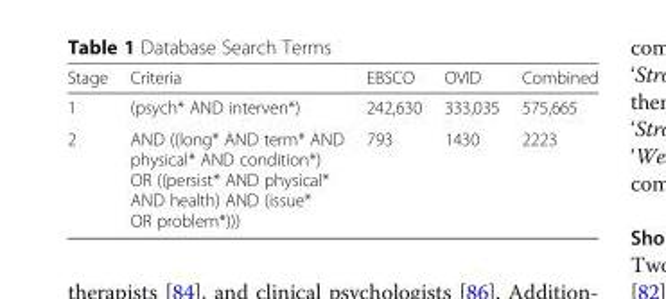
<table><thead><tr><td>Stage</td><td>Criteria</td><td>EBSCO</td><td>OVID</td><td>Combined</td></tr></thead><tbody><tr><td>1</td><td>(psych* AND interven*)</td><td>242,630</td><td>333,035</td><td>575,665</td></tr><tr><td>2</td><td>AND ((long* AND term* AND physical* AND condition*) OR ((persist* AND physical* AND health) AND (issue* OR problem*)))</td><td>793</td><td>1430</td><td>2223</td></tr></tbody></table>